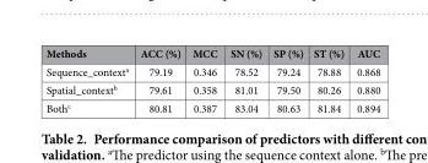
<table><thead><tr><td>Methods</td><td>ACC (%)</td><td>MCC</td><td>SN (%)</td><td>SP (%)</td><td>ST (%)</td><td>AUC</td></tr></thead><tbody><tr><td>Sequence_context<sup>a</sup></td><td>79.19</td><td>0.346</td><td>78.52</td><td>79.24</td><td>78.88</td><td>0.868</td></tr><tr><td>Spatial_context<sup>b</sup></td><td>79.61</td><td>0.358</td><td>81.01</td><td>79.50</td><td>80.26</td><td>0.880</td></tr><tr><td>Both<sup>c</sup></td><td>80.81</td><td>0.387</td><td>83.04</td><td>80.63</td><td>81.84</td><td>0.894</td></tr></tbody></table>